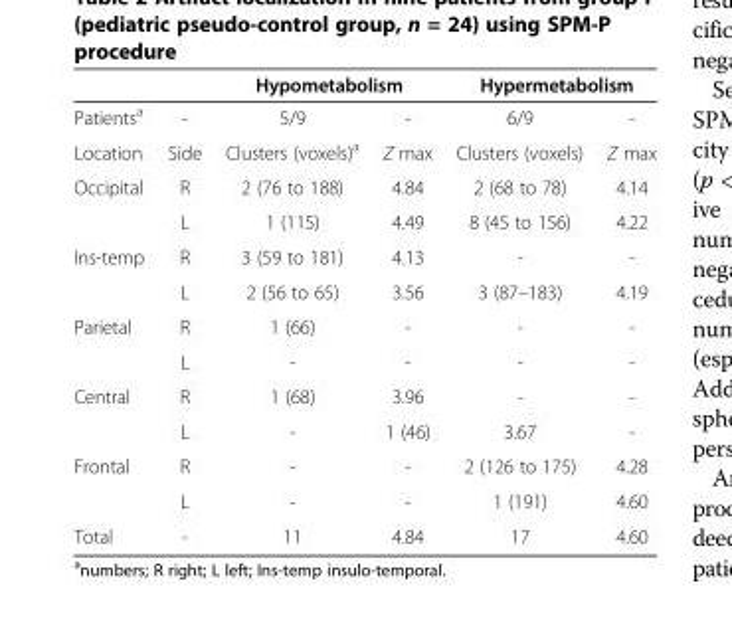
<table><thead><tr><td rowspan="2">Patients<sup>a</sup></td><td rowspan="2">-</td><td colspan="2">Hypometabolism</td><td colspan="2">Hypermetabolism</td></tr><tr><td>5/9</td><td>-</td><td>6/9</td><td>-</td></tr></thead><tbody><tr><td>Location</td><td>Side</td><td>Clusters (voxels)<sup>a</sup></td><td>Z max</td><td>Clusters (voxels)</td><td>Z max</td></tr><tr><td rowspan="2">Occipital</td><td>R</td><td>2 (76 to 188)</td><td>4.84</td><td>2 (68 to 78)</td><td>4.14</td></tr><tr><td>L</td><td>1 (115)</td><td>4.49</td><td>8 (45 to 156)</td><td>4.22</td></tr><tr><td rowspan="2">Ins-temp</td><td>R</td><td>3 (59 to 181)</td><td>4.13</td><td>-</td><td>-</td></tr><tr><td>L</td><td>2 (56 to 65)</td><td>3.56</td><td>3 (87–183)</td><td>4.19</td></tr><tr><td rowspan="2">Parietal</td><td>R</td><td>1 (66)</td><td>-</td><td>-</td><td>-</td></tr><tr><td>L</td><td>-</td><td>-</td><td>-</td><td>-</td></tr><tr><td rowspan="2">Central</td><td>R</td><td>1 (68)</td><td>3.96</td><td>-</td><td>-</td></tr><tr><td>L</td><td>-</td><td>1 (46)</td><td>3.67</td><td>-</td></tr><tr><td rowspan="2">Frontal</td><td>R</td><td>-</td><td>-</td><td>2 (126 to 175)</td><td>4.28</td></tr><tr><td>L</td><td>-</td><td>-</td><td>1 (191)</td><td>4.60</td></tr><tr><td>Total</td><td>-</td><td>11</td><td>4.84</td><td>17</td><td>4.60</td></tr></tbody></table>